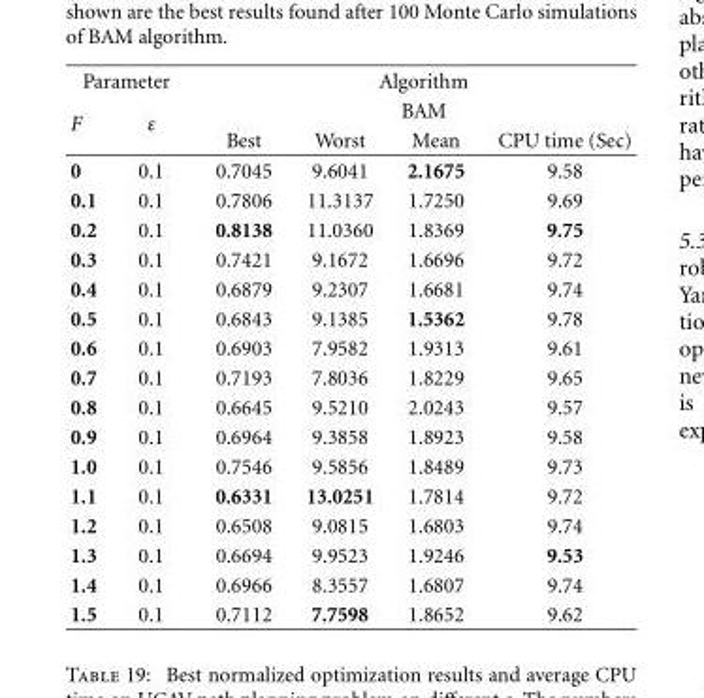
<table><thead><tr><td colspan="2">Parameter</td><td rowspan="2" colspan="4">Algorithm BAM</td></tr><tr><td rowspan="2">F</td><td rowspan="2">ε</td></tr><tr><td>Best</td><td>Worst</td><td>Mean</td><td>CPU time (Sec)</td></tr></thead><tbody><tr><td>0</td><td>0.1</td><td>0.7045</td><td>9.6041</td><td>2.1675</td><td>9.58</td></tr><tr><td>0.1</td><td>0.1</td><td>0.7806</td><td>11.3137</td><td>1.7250</td><td>9.69</td></tr><tr><td>0.2</td><td>0.1</td><td>0.8138</td><td>11.0360</td><td>1.8369</td><td>9.75</td></tr><tr><td>0.3</td><td>0.1</td><td>0.7421</td><td>9.1672</td><td>1.6696</td><td>9.72</td></tr><tr><td>0.4</td><td>0.1</td><td>0.6879</td><td>9.2307</td><td>1.6681</td><td>9.74</td></tr><tr><td>0.5</td><td>0.1</td><td>0.6843</td><td>9.1385</td><td>1.5362</td><td>9.78</td></tr><tr><td>0.6</td><td>0.1</td><td>0.6903</td><td>7.9582</td><td>1.9313</td><td>9.61</td></tr><tr><td>0.7</td><td>0.1</td><td>0.7193</td><td>7.8036</td><td>1.8229</td><td>9.65</td></tr><tr><td>0.8</td><td>0.1</td><td>0.6645</td><td>9.5210</td><td>2.0243</td><td>9.57</td></tr><tr><td>0.9</td><td>0.1</td><td>0.6964</td><td>9.3858</td><td>1.8923</td><td>9.58</td></tr><tr><td>1.0</td><td>0.1</td><td>0.7546</td><td>9.5856</td><td>1.8489</td><td>9.73</td></tr><tr><td>1.1</td><td>0.1</td><td>0.6331</td><td>13.0251</td><td>1.7814</td><td>9.72</td></tr><tr><td>1.2</td><td>0.1</td><td>0.6508</td><td>9.0815</td><td>1.6803</td><td>9.74</td></tr><tr><td>1.3</td><td>0.1</td><td>0.6694</td><td>9.9523</td><td>1.9246</td><td>9.53</td></tr><tr><td>1.4</td><td>0.1</td><td>0.6966</td><td>8.3557</td><td>1.6807</td><td>9.74</td></tr><tr><td>1.5</td><td>0.1</td><td>0.7112</td><td>7.7598</td><td>1.8652</td><td>9.62</td></tr></tbody></table>